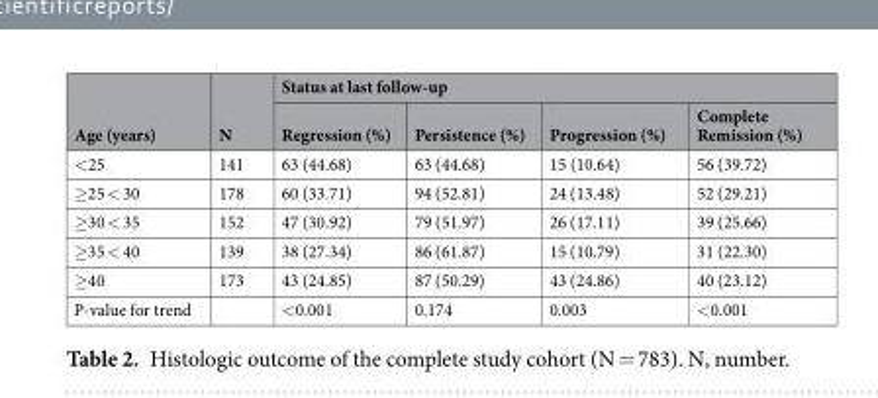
<table><thead><tr><td rowspan="2">Age (years)</td><td rowspan="2">N</td><td colspan="4">Status at last follow-up</td></tr><tr><td>Regression (%)</td><td>Persistence (%)</td><td>Progression (%)</td><td>Complete Remission (%)</td></tr></thead><tbody><tr><td>&lt;25</td><td>141</td><td>63 (44.68)</td><td>63 (44.68)</td><td>15 (10.64)</td><td>56 (39.72)</td></tr><tr><td>≥25 &lt; 30</td><td>178</td><td>60 (33.71)</td><td>94 (52.81)</td><td>24 (13.48)</td><td>52 (29.21)</td></tr><tr><td>≥30 &lt; 35</td><td>152</td><td>47 (30.92)</td><td>79 (51.97)</td><td>26 (17.11)</td><td>39 (25.66)</td></tr><tr><td>≥35 &lt; 40</td><td>139</td><td>38 (27.34)</td><td>86 (61.87)</td><td>15 (10.79)</td><td>31 (22.30)</td></tr><tr><td>≥40</td><td>173</td><td>43 (24.85)</td><td>87 (50.29)</td><td>43 (24.86)</td><td>40 (23.12)</td></tr><tr><td>P-value for trend</td><td></td><td>&lt;0.001</td><td>0.174</td><td>0.003</td><td>&lt;0.001</td></tr></tbody></table>